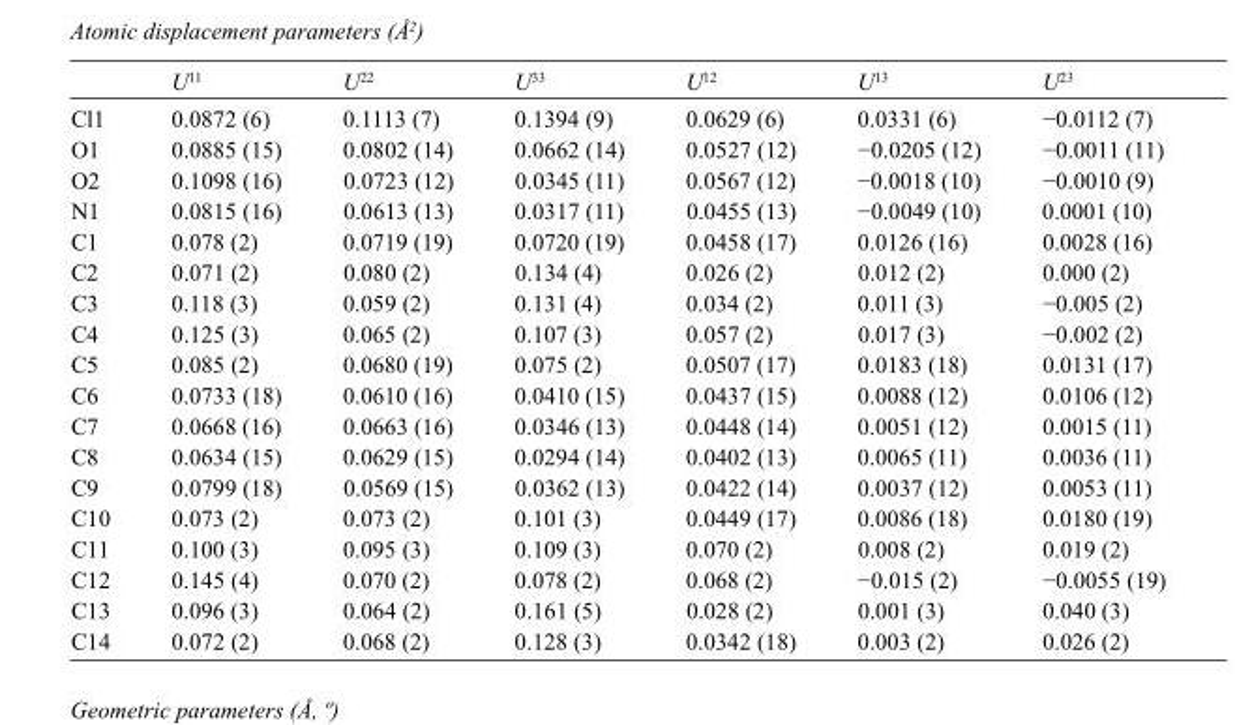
<table><thead><tr><td></td><td>U<sup>11</sup></td><td>U<sup>22</sup></td><td>U<sup>33</sup></td><td>U<sup>12</sup></td><td>U<sup>13</sup></td><td>U<sup>23</sup></td></tr></thead><tbody><tr><td>Cl1</td><td>0.0872 (6)</td><td>0.1113 (7)</td><td>0.1394 (9)</td><td>0.0629 (6)</td><td>0.0331 (6)</td><td>−0.0112 (7)</td></tr><tr><td>O1</td><td>0.0885 (15)</td><td>0.0802 (14)</td><td>0.0662 (14)</td><td>0.0527 (12)</td><td>−0.0205 (12)</td><td>−0.0011 (11)</td></tr><tr><td>O2</td><td>0.1098 (16)</td><td>0.0723 (12)</td><td>0.0345 (11)</td><td>0.0567 (12)</td><td>−0.0018 (10)</td><td>−0.0010 (9)</td></tr><tr><td>N1</td><td>0.0815 (16)</td><td>0.0613 (13)</td><td>0.0317 (11)</td><td>0.0455 (13)</td><td>−0.0049 (10)</td><td>0.0001 (10)</td></tr><tr><td>C1</td><td>0.078 (2)</td><td>0.0719 (19)</td><td>0.0720 (19)</td><td>0.0458 (17)</td><td>0.0126 (16)</td><td>0.0028 (16)</td></tr><tr><td>C2</td><td>0.071 (2)</td><td>0.080 (2)</td><td>0.134 (4)</td><td>0.026 (2)</td><td>0.012 (2)</td><td>0.000 (2)</td></tr><tr><td>C3</td><td>0.118 (3)</td><td>0.059 (2)</td><td>0.131 (4)</td><td>0.034 (2)</td><td>0.011 (3)</td><td>−0.005 (2)</td></tr><tr><td>C4</td><td>0.125 (3)</td><td>0.065 (2)</td><td>0.107 (3)</td><td>0.057 (2)</td><td>0.017 (3)</td><td>−0.002 (2)</td></tr><tr><td>C5</td><td>0.085 (2)</td><td>0.0680 (19)</td><td>0.075 (2)</td><td>0.0507 (17)</td><td>0.0183 (18)</td><td>0.0131 (17)</td></tr><tr><td>C6</td><td>0.0733 (18)</td><td>0.0610 (16)</td><td>0.0410 (15)</td><td>0.0437 (15)</td><td>0.0088 (12)</td><td>0.0106 (12)</td></tr><tr><td>C7</td><td>0.0668 (16)</td><td>0.0663 (16)</td><td>0.0346 (13)</td><td>0.0448 (14)</td><td>0.0051 (12)</td><td>0.0015 (11)</td></tr><tr><td>C8</td><td>0.0634 (15)</td><td>0.0629 (15)</td><td>0.0294 (14)</td><td>0.0402 (13)</td><td>0.0065 (11)</td><td>0.0036 (11)</td></tr><tr><td>C9</td><td>0.0799 (18)</td><td>0.0569 (15)</td><td>0.0362 (13)</td><td>0.0422 (14)</td><td>0.0037 (12)</td><td>0.0053 (11)</td></tr><tr><td>C10</td><td>0.073 (2)</td><td>0.073 (2)</td><td>0.101 (3)</td><td>0.0449 (17)</td><td>0.0086 (18)</td><td>0.0180 (19)</td></tr><tr><td>C11</td><td>0.100 (3)</td><td>0.095 (3)</td><td>0.109 (3)</td><td>0.070 (2)</td><td>0.008 (2)</td><td>0.019 (2)</td></tr><tr><td>C12</td><td>0.145 (4)</td><td>0.070 (2)</td><td>0.078 (2)</td><td>0.068 (2)</td><td>−0.015 (2)</td><td>−0.0055 (19)</td></tr><tr><td>C13</td><td>0.096 (3)</td><td>0.064 (2)</td><td>0.161 (5)</td><td>0.028 (2)</td><td>0.001 (3)</td><td>0.040 (3)</td></tr><tr><td>C14</td><td>0.072 (2)</td><td>0.068 (2)</td><td>0.128 (3)</td><td>0.0342 (18)</td><td>0.003 (2)</td><td>0.026 (2)</td></tr></tbody></table>